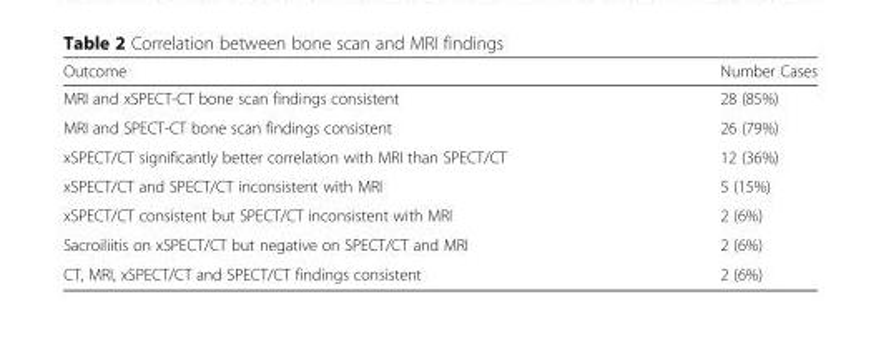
<table><thead><tr><td>Outcome</td><td>Number Cases</td></tr></thead><tbody><tr><td>MRI and xSPECT-CT bone scan findings consistent</td><td>28 (85%)</td></tr><tr><td>MRI and SPECT-CT bone scan findings consistent</td><td>26 (79%)</td></tr><tr><td>xSPECT/CT significantly better correlation with MRI than SPECT/CT</td><td>12 (36%)</td></tr><tr><td>xSPECT/CT and SPECT/CT inconsistent with MRI</td><td>5 (15%)</td></tr><tr><td>xSPECT/CT consistent but SPECT/CT inconsistent with MRI</td><td>2 (6%)</td></tr><tr><td>Sacroiliitis on xSPECT/CT but negative on SPECT/CT and MRI</td><td>2 (6%)</td></tr><tr><td>CT, MRI, xSPECT/CT and SPECT/CT findings consistent</td><td>2 (6%)</td></tr></tbody></table>